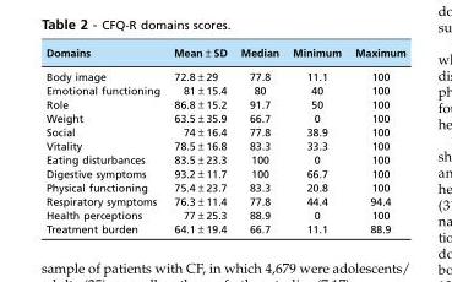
<table><thead><tr><td>Domains</td><td>Mean±SD</td><td>Median</td><td>Minimum</td><td>Maximum</td></tr></thead><tbody><tr><td>Body image</td><td>72.8±29</td><td>77.8</td><td>11.1</td><td>100</td></tr><tr><td>Emotional functioning</td><td>81±15.4</td><td>80</td><td>40</td><td>100</td></tr><tr><td>Role</td><td>86.8±15.2</td><td>91.7</td><td>50</td><td>100</td></tr><tr><td>Weight</td><td>63.5±35.9</td><td>66.7</td><td>0</td><td>100</td></tr><tr><td>Social</td><td>74±16.4</td><td>77.8</td><td>38.9</td><td>100</td></tr><tr><td>Vitality</td><td>78.5±16.8</td><td>83.3</td><td>33.3</td><td>100</td></tr><tr><td>Eating disturbances</td><td>83.5±23.3</td><td>100</td><td>0</td><td>100</td></tr><tr><td>Digestive symptoms</td><td>93.2±11.7</td><td>100</td><td>66.7</td><td>100</td></tr><tr><td>Physical functioning</td><td>75.4±23.7</td><td>83.3</td><td>20.8</td><td>100</td></tr><tr><td>Respiratory symptoms</td><td>76.3±11.4</td><td>77.8</td><td>44.4</td><td>94.4</td></tr><tr><td>Health perceptions</td><td>77±25.3</td><td>88.9</td><td>0</td><td>100</td></tr><tr><td>Treatment burden</td><td>64.1±19.4</td><td>66.7</td><td>11.1</td><td>88.9</td></tr></tbody></table>